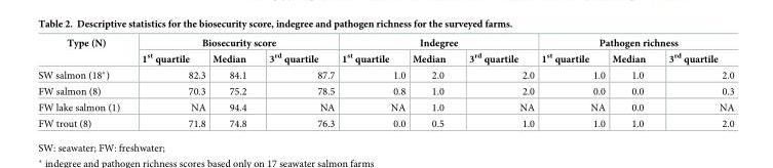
<table><thead><tr><td rowspan="2">Type (N)</td><td colspan="3">Biosecurity score</td><td colspan="3">Indegree</td><td colspan="3">Pathogen richness</td></tr><tr><td>1<sup>st</sup> quartile</td><td>Median</td><td>3<sup>rd</sup> quartile</td><td>1<sup>st</sup> quartile</td><td>Median</td><td>3<sup>rd</sup> quartile</td><td>1<sup>st</sup> quartile</td><td>Median</td><td>3<sup>rd</sup> quartile</td></tr></thead><tbody><tr><td>SW salmon (18*)</td><td>82.3</td><td>84.1</td><td>87.7</td><td>1.0</td><td>2.0</td><td>2.0</td><td>1.0</td><td>1.0</td><td>2.0</td></tr><tr><td>FW salmon (8)</td><td>70.3</td><td>75.2</td><td>78.5</td><td>0.8</td><td>1.0</td><td>2.0</td><td>0.0</td><td>0.0</td><td>0.3</td></tr><tr><td>FW lake salmon (1)</td><td>NA</td><td>94.4</td><td>NA</td><td>NA</td><td>1.0</td><td>NA</td><td>NA</td><td>0.0</td><td>NA</td></tr><tr><td>FW trout (8)</td><td>71.8</td><td>74.8</td><td>76.3</td><td>0.0</td><td>0.5</td><td>1.0</td><td>1.0</td><td>1.0</td><td>2.0</td></tr></tbody></table>